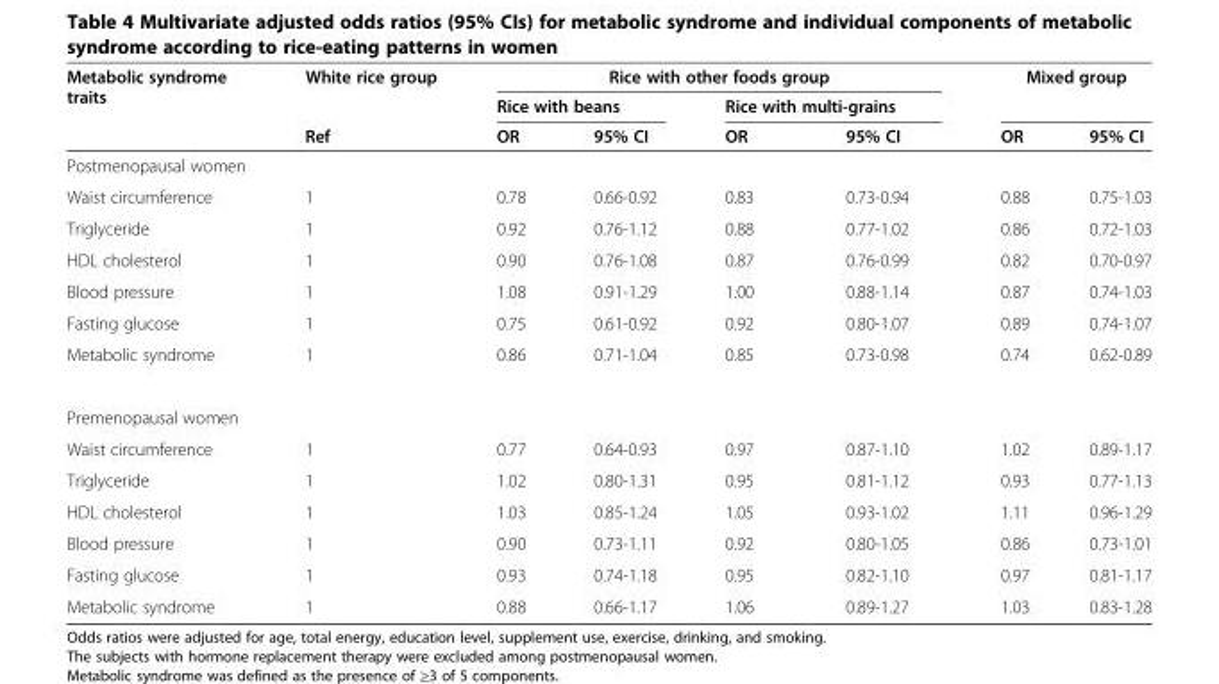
<table><thead><tr><td rowspan="3">Metabolic syndrome traits</td><td rowspan="3">White rice group Ref</td><td colspan="4">Rice with other foods group</td><td rowspan="2" colspan="2">Mixed group</td></tr><tr><td colspan="2">Rice with beans</td><td colspan="2">Rice with multi-grains</td></tr><tr><td>OR</td><td>95% CI</td><td>OR</td><td>95% CI</td><td>OR</td><td>95% CI</td></tr></thead><tbody><tr><td colspan="8">Postmenopausal women</td></tr><tr><td>Waist circumference</td><td>1</td><td>0.78</td><td>0.66-0.92</td><td>0.83</td><td>0.73-0.94</td><td>0.88</td><td>0.75-1.03</td></tr><tr><td>Triglyceride</td><td>1</td><td>0.92</td><td>0.76-1.12</td><td>0.88</td><td>0.77-1.02</td><td>0.86</td><td>0.72-1.03</td></tr><tr><td>HDL cholesterol</td><td>1</td><td>0.90</td><td>0.76-1.08</td><td>0.87</td><td>0.76-0.99</td><td>0.82</td><td>0.70-0.97</td></tr><tr><td>Blood pressure</td><td>1</td><td>1.08</td><td>0.91-1.29</td><td>1.00</td><td>0.88-1.14</td><td>0.87</td><td>0.74-1.03</td></tr><tr><td>Fasting glucose</td><td>1</td><td>0.75</td><td>0.61-0.92</td><td>0.92</td><td>0.80-1.07</td><td>0.89</td><td>0.74-1.07</td></tr><tr><td>Metabolic syndrome</td><td>1</td><td>0.86</td><td>0.71-1.04</td><td>0.85</td><td>0.73-0.98</td><td>0.74</td><td>0.62-0.89</td></tr><tr><td colspan="8">Premenopausal women</td></tr><tr><td>Waist circumference</td><td>1</td><td>0.77</td><td>0.64-0.93</td><td>0.97</td><td>0.87-1.10</td><td>1.02</td><td>0.89-1.17</td></tr><tr><td>Triglyceride</td><td>1</td><td>1.02</td><td>0.80-1.31</td><td>0.95</td><td>0.81-1.12</td><td>0.93</td><td>0.77-1.13</td></tr><tr><td>HDL cholesterol</td><td>1</td><td>1.03</td><td>0.85-1.24</td><td>1.05</td><td>0.93-1.02</td><td>1.11</td><td>0.96-1.29</td></tr><tr><td>Blood pressure</td><td>1</td><td>0.90</td><td>0.73-1.11</td><td>0.92</td><td>0.80-1.05</td><td>0.86</td><td>0.73-1.01</td></tr><tr><td>Fasting glucose</td><td>1</td><td>0.93</td><td>0.74-1.18</td><td>0.95</td><td>0.82-1.10</td><td>0.97</td><td>0.81-1.17</td></tr><tr><td>Metabolic syndrome</td><td>1</td><td>0.88</td><td>0.66-1.17</td><td>1.06</td><td>0.89-1.27</td><td>1.03</td><td>0.83-1.28</td></tr></tbody></table>